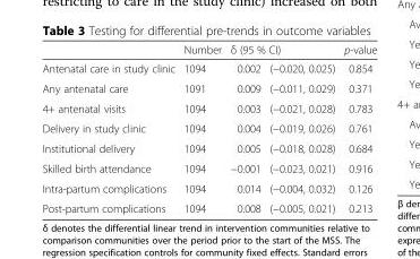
<table><thead><tr><td rowspan="2">Antenatal care in study clinic</td><td rowspan="2">Number 1094</td><td colspan="2">δ (95 % CI)</td><td rowspan="2">p-value 0.854</td></tr><tr><td>0.002</td><td>(−0.020, 0.025)</td></tr></thead><tbody><tr><td>Any antenatal care</td><td>1091</td><td>0.009</td><td>(−0.011, 0.029)</td><td>0.371</td></tr><tr><td>4+ antenatal visits</td><td>1094</td><td>0.003</td><td>(−0.021, 0.028)</td><td>0.783</td></tr><tr><td>Delivery in study clinic</td><td>1094</td><td>0.004</td><td>(−0.019, 0.026)</td><td>0.761</td></tr><tr><td>Institutional delivery</td><td>1094</td><td>0.005</td><td>(−0.018, 0.028)</td><td>0.684</td></tr><tr><td>Skilled birth attendance</td><td>1094</td><td>−0.001</td><td>(−0.023, 0.021)</td><td>0.916</td></tr><tr><td>Intra-partum complications</td><td>1094</td><td>0.014</td><td>(−0.004, 0.032)</td><td>0.126</td></tr><tr><td>Post-partum complications</td><td>1094</td><td>0.008</td><td>(−0.005, 0.021)</td><td>0.213</td></tr></tbody></table>